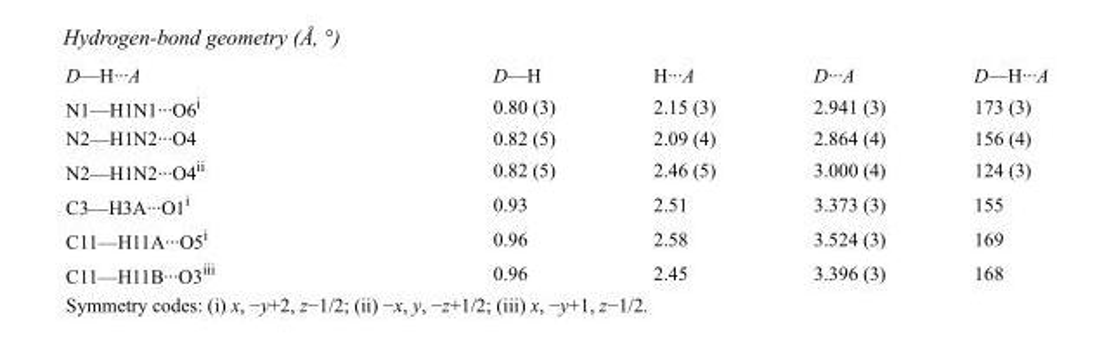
<table><tbody><tr><td>D—H···A</td><td>D—H</td><td>H···A</td><td>D···A</td><td>D—H···A</td></tr><tr><td>N1—H1N1···O6<sup>i</sup></td><td>0.80 (3)</td><td>2.15 (3)</td><td>2.941 (3)</td><td>173 (3)</td></tr><tr><td>N2—H1N2···O4</td><td>0.82 (5)</td><td>2.09 (4)</td><td>2.864 (4)</td><td>156 (4)</td></tr><tr><td>N2—H1N2···O4<sup>ii</sup></td><td>0.82 (5)</td><td>2.46 (5)</td><td>3.000 (4)</td><td>124 (3)</td></tr><tr><td>C3—H3A···O1<sup>i</sup></td><td>0.93</td><td>2.51</td><td>3.373 (3)</td><td>155</td></tr><tr><td>C11—H11A···O5<sup>i</sup></td><td>0.96</td><td>2.58</td><td>3.524 (3)</td><td>169</td></tr><tr><td>C11—H11B···O3<sup>iii</sup></td><td>0.96</td><td>2.45</td><td>3.396 (3)</td><td>168</td></tr></tbody></table>